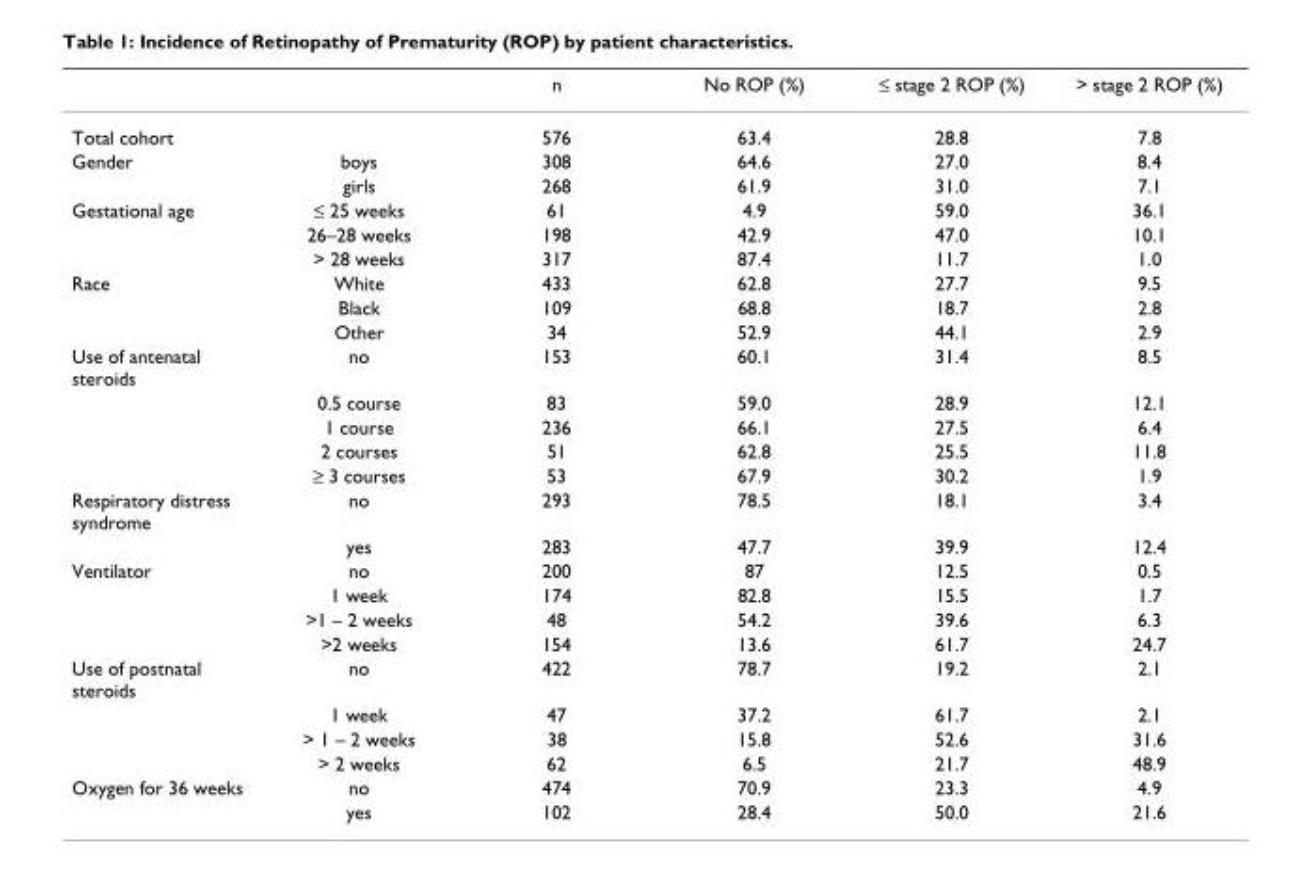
<table><thead><tr><td></td><td></td><td>n</td><td>No ROP (%)</td><td>≤ stage 2 ROP (%)</td><td>&gt; stage 2 ROP (%)</td></tr></thead><tbody><tr><td>Total cohort</td><td></td><td>576</td><td>63.4</td><td>28.8</td><td>7.8</td></tr><tr><td rowspan="2">Gender</td><td>boys</td><td>308</td><td>64.6</td><td>27.0</td><td>8.4</td></tr><tr><td>girls</td><td>268</td><td>61.9</td><td>31.0</td><td>7.1</td></tr><tr><td rowspan="3">Gestational age</td><td>≤ 25 weeks</td><td>61</td><td>4.9</td><td>59.0</td><td>36.1</td></tr><tr><td>26–28 weeks</td><td>198</td><td>42.9</td><td>47.0</td><td>10.1</td></tr><tr><td>&gt; 28 weeks</td><td>317</td><td>87.4</td><td>11.7</td><td>1.0</td></tr><tr><td rowspan="3">Race</td><td>White</td><td>433</td><td>62.8</td><td>27.7</td><td>9.5</td></tr><tr><td>Black</td><td>109</td><td>68.8</td><td>18.7</td><td>2.8</td></tr><tr><td>Other</td><td>34</td><td>52.9</td><td>44.1</td><td>2.9</td></tr><tr><td rowspan="5">Use of antenatal steroids</td><td>no</td><td>153</td><td>60.1</td><td>31.4</td><td>8.5</td></tr><tr><td>0.5 course</td><td>83</td><td>59.0</td><td>28.9</td><td>12.1</td></tr><tr><td>1 course</td><td>236</td><td>66.1</td><td>27.5</td><td>6.4</td></tr><tr><td>2 courses</td><td>51</td><td>62.8</td><td>25.5</td><td>11.8</td></tr><tr><td>≥ 3 courses</td><td>53</td><td>67.9</td><td>30.2</td><td>1.9</td></tr><tr><td rowspan="2">Respiratory distress syndrome</td><td>no</td><td>293</td><td>78.5</td><td>18.1</td><td>3.4</td></tr><tr><td>yes</td><td>283</td><td>47.7</td><td>39.9</td><td>12.4</td></tr><tr><td rowspan="4">Ventilator</td><td>no</td><td>200</td><td>87</td><td>12.5</td><td>0.5</td></tr><tr><td>1 week</td><td>174</td><td>82.8</td><td>15.5</td><td>1.7</td></tr><tr><td>&gt;1 – 2 weeks</td><td>48</td><td>54.2</td><td>39.6</td><td>6.3</td></tr><tr><td>&gt;2 weeks</td><td>154</td><td>13.6</td><td>61.7</td><td>24.7</td></tr><tr><td rowspan="4">Use of postnatal steroids</td><td>no</td><td>422</td><td>78.7</td><td>19.2</td><td>2.1</td></tr><tr><td>1 week</td><td>47</td><td>37.2</td><td>61.7</td><td>2.1</td></tr><tr><td>&gt; 1 – 2 weeks</td><td>38</td><td>15.8</td><td>52.6</td><td>31.6</td></tr><tr><td>&gt; 2 weeks</td><td>62</td><td>6.5</td><td>21.7</td><td>48.9</td></tr><tr><td rowspan="2">Oxygen for 36 weeks</td><td>no</td><td>474</td><td>70.9</td><td>23.3</td><td>4.9</td></tr><tr><td>yes</td><td>102</td><td>28.4</td><td>50.0</td><td>21.6</td></tr></tbody></table>